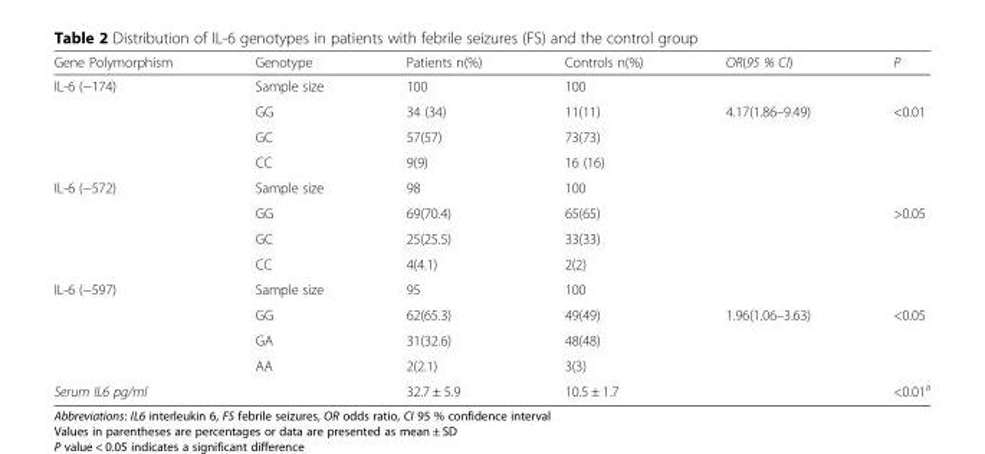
<table><thead><tr><td>Gene Polymorphism</td><td>Genotype</td><td>Patients n(%)</td><td>Controls n(%)</td><td>OR(95 % CI)</td><td>P</td></tr></thead><tbody><tr><td rowspan="4">IL-6 (−174)</td><td>Sample size</td><td>100</td><td>100</td><td></td><td></td></tr><tr><td>GG</td><td>34 (34)</td><td>11(11)</td><td>4.17(1.86–9.49)</td><td>&lt;0.01</td></tr><tr><td>GC</td><td>57(57)</td><td>73(73)</td><td></td><td></td></tr><tr><td>CC</td><td>9(9)</td><td>16 (16)</td><td></td><td></td></tr><tr><td rowspan="4">IL-6 (−572)</td><td>Sample size</td><td>98</td><td>100</td><td></td><td></td></tr><tr><td>GG</td><td>69(70.4)</td><td>65(65)</td><td></td><td>&gt;0.05</td></tr><tr><td>GC</td><td>25(25.5)</td><td>33(33)</td><td></td><td></td></tr><tr><td>CC</td><td>4(4.1)</td><td>2(2)</td><td></td><td></td></tr><tr><td rowspan="4">IL-6 (−597)</td><td>Sample size</td><td>95</td><td>100</td><td></td><td></td></tr><tr><td>GG</td><td>62(65.3)</td><td>49(49)</td><td>1.96(1.06–3.63)</td><td>&lt;0.05</td></tr><tr><td>GA</td><td>31(32.6)</td><td>48(48)</td><td></td><td></td></tr><tr><td>AA</td><td>2(2.1)</td><td>3(3)</td><td></td><td></td></tr><tr><td>Serum IL6 pg/ml</td><td></td><td>32.7 ± 5.9</td><td>10.5 ± 1.7</td><td></td><td>&lt;0.01<sup>a</sup></td></tr></tbody></table>